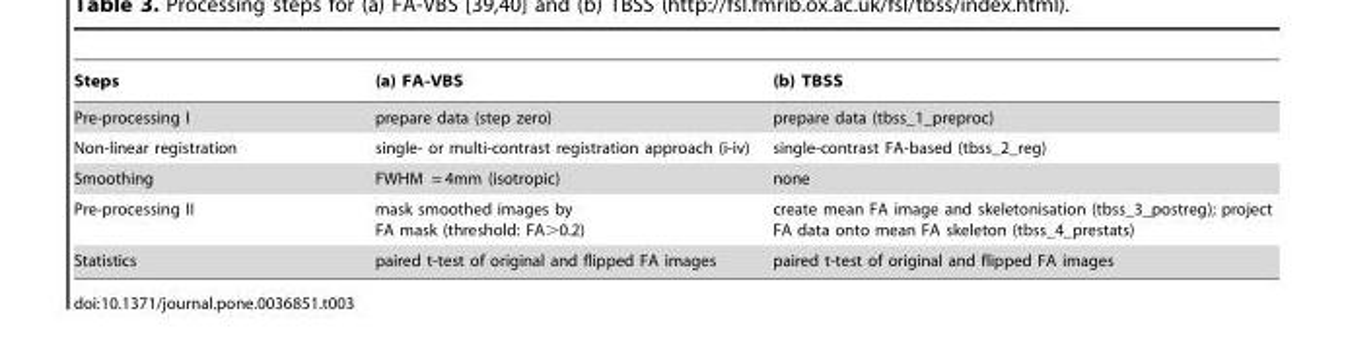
<table><thead><tr><td>Steps</td><td>(a) FA-VBS</td><td>(b) TBSS</td></tr></thead><tbody><tr><td>Pre-processing I</td><td>prepare data (step zero)</td><td>prepare data (tbss_1_preproc)</td></tr><tr><td>Non-linear registration</td><td>single- or multi-contrast registration approach (i-iv)</td><td>single-contrast FA-based (tbss_2_reg)</td></tr><tr><td>Smoothing</td><td>FWHM = 4mm (isotropic)</td><td>none</td></tr><tr><td>Pre-processing II</td><td>mask smoothed images by FA mask (threshold: FA&gt;0.2)</td><td>create mean FA image and skeletonisation (tbss_3_postreg); project FA data onto mean FA skeleton (tbss_4_prestats)</td></tr><tr><td>Statistics</td><td>paired t-test of original and flipped FA images</td><td>paired t-test of original and flipped FA images</td></tr></tbody></table>